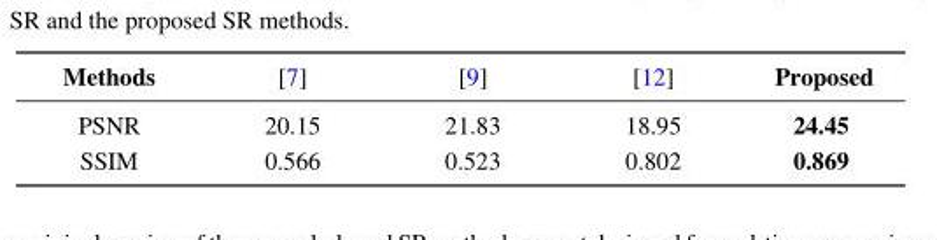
<table><thead><tr><td>Methods</td><td>[7]</td><td>[9]</td><td>[12]</td><td>Proposed</td></tr></thead><tbody><tr><td>PSNR</td><td>20.15</td><td>21.83</td><td>18.95</td><td>24.45</td></tr><tr><td>SSIM</td><td>0.566</td><td>0.523</td><td>0.802</td><td>0.869</td></tr></tbody></table>